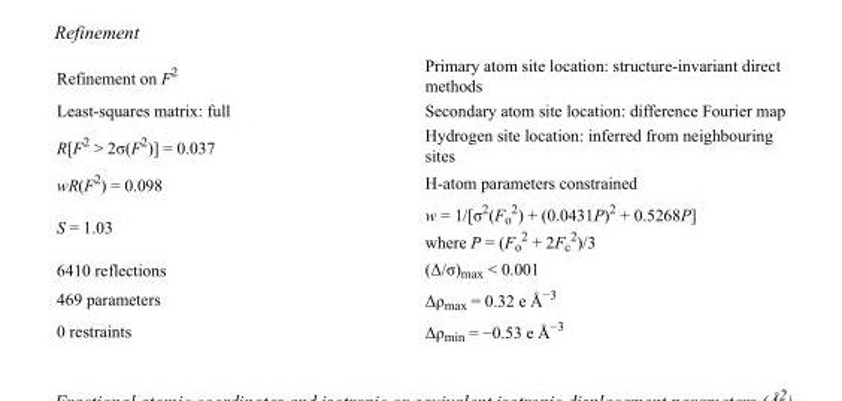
<table><tbody><tr><td>Refinement on F<sup>2</sup></td><td>Primary atom site location: structure-invariant direct methods</td></tr><tr><td>Least-squares matrix: full</td><td>Secondary atom site location: difference Fourier map</td></tr><tr><td>R[F<sup>2</sup> &gt; 2σ(F<sup>2</sup>)] = 0.037</td><td>Hydrogen site location: inferred from neighbouring sites</td></tr><tr><td>wR(F<sup>2</sup>) = 0.098</td><td>H-atom parameters constrained</td></tr><tr><td>S = 1.03</td><td>w = 1/[σ<sup>2</sup>(F<sub>o</sub> <sup>2</sup>) + (0.0431P)<sup>2</sup> + 0.5268P] where P = (F<sub>o</sub> <sup>2</sup> + 2F<sub>c</sub> <sup>2</sup>)/3</td></tr><tr><td>6410 reflections</td><td>(Δ/σ)<sub>max</sub> &lt; 0.001</td></tr><tr><td>469 parameters</td><td>Δρ<sub>max</sub> = 0.32 e Å<sup>−3</sup></td></tr><tr><td>0 restraints</td><td>Δρ<sub>min</sub> = −0.53 e Å<sup>−3</sup></td></tr></tbody></table>